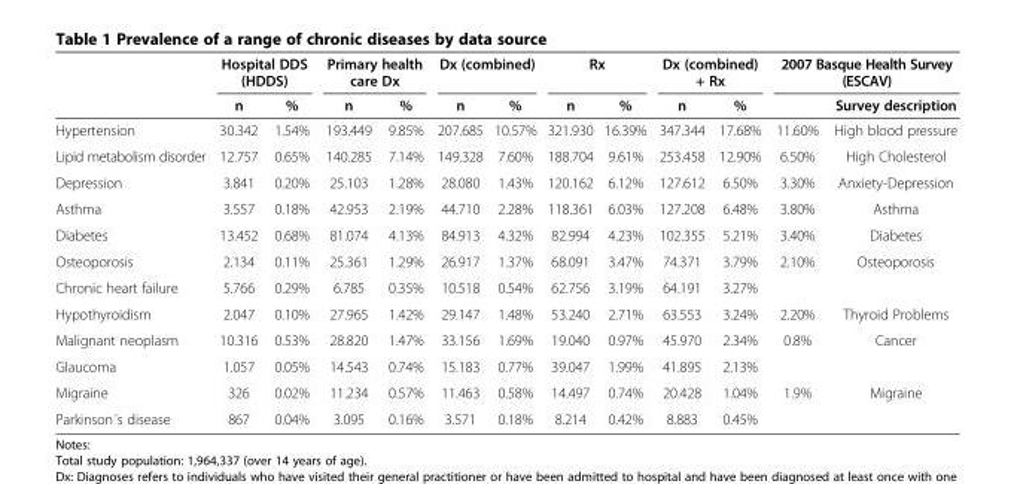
<table><thead><tr><td rowspan="2"></td><td colspan="2">Hospital DDS (HDDS)</td><td colspan="2">Primary health care Dx</td><td colspan="2">Dx (combined)</td><td colspan="2">Rx</td><td colspan="2">Dx (combined) + Rx</td><td colspan="2">2007 Basque Health Survey (ESCAV)</td></tr><tr><td>n</td><td>%</td><td>n</td><td>%</td><td>n</td><td>%</td><td>n</td><td>%</td><td>n</td><td>%</td><td></td><td>Survey description</td></tr></thead><tbody><tr><td>Hypertension</td><td>30.342</td><td>1.54%</td><td>193.449</td><td>9.85%</td><td>207.685</td><td>10.57%</td><td>321.930</td><td>16.39%</td><td>347.344</td><td>17.68%</td><td>11.60%</td><td>High blood pressure</td></tr><tr><td>Lipid metabolism disorder</td><td>12.757</td><td>0.65%</td><td>140.285</td><td>7.14%</td><td>149.328</td><td>7.60%</td><td>188.704</td><td>9.61%</td><td>253.458</td><td>12.90%</td><td>6.50%</td><td>High Cholesterol</td></tr><tr><td>Depression</td><td>3.841</td><td>0.20%</td><td>25.103</td><td>1.28%</td><td>28.080</td><td>1.43%</td><td>120.162</td><td>6.12%</td><td>127.612</td><td>6.50%</td><td>3.30%</td><td>Anxiety-Depression</td></tr><tr><td>Asthma</td><td>3.557</td><td>0.18%</td><td>42.953</td><td>2.19%</td><td>44.710</td><td>2.28%</td><td>118.361</td><td>6.03%</td><td>127.208</td><td>6.48%</td><td>3.80%</td><td>Asthma</td></tr><tr><td>Diabetes</td><td>13.452</td><td>0.68%</td><td>81.074</td><td>4.13%</td><td>84.913</td><td>4.32%</td><td>82.994</td><td>4.23%</td><td>102.355</td><td>5.21%</td><td>3.40%</td><td>Diabetes</td></tr><tr><td>Osteoporosis</td><td>2.134</td><td>0.11%</td><td>25.361</td><td>1.29%</td><td>26.917</td><td>1.37%</td><td>68.091</td><td>3.47%</td><td>74.371</td><td>3.79%</td><td>2.10%</td><td>Osteoporosis</td></tr><tr><td>Chronic heart failure</td><td>5.766</td><td>0.29%</td><td>6.785</td><td>0.35%</td><td>10.518</td><td>0.54%</td><td>62.756</td><td>3.19%</td><td>64.191</td><td>3.27%</td><td></td><td></td></tr><tr><td>Hypothyroidism</td><td>2.047</td><td>0.10%</td><td>27.965</td><td>1.42%</td><td>29.147</td><td>1.48%</td><td>53.240</td><td>2.71%</td><td>63.553</td><td>3.24%</td><td>2.20%</td><td>Thyroid Problems</td></tr><tr><td>Malignant neoplasm</td><td>10.316</td><td>0.53%</td><td>28.820</td><td>1.47%</td><td>33.156</td><td>1.69%</td><td>19.040</td><td>0.97%</td><td>45.970</td><td>2.34%</td><td>0.8%</td><td>Cancer</td></tr><tr><td>Glaucoma</td><td>1.057</td><td>0.05%</td><td>14.543</td><td>0.74%</td><td>15.183</td><td>0.77%</td><td>39.047</td><td>1.99%</td><td>41.895</td><td>2.13%</td><td></td><td></td></tr><tr><td>Migraine</td><td>326</td><td>0.02%</td><td>11.234</td><td>0.57%</td><td>11.463</td><td>0.58%</td><td>14.497</td><td>0.74%</td><td>20.428</td><td>1.04%</td><td>1.9%</td><td>Migraine</td></tr><tr><td>Parkinson´s disease</td><td>867</td><td>0.04%</td><td>3.095</td><td>0.16%</td><td>3.571</td><td>0.18%</td><td>8.214</td><td>0.42%</td><td>8.883</td><td>0.45%</td><td></td><td></td></tr></tbody></table>